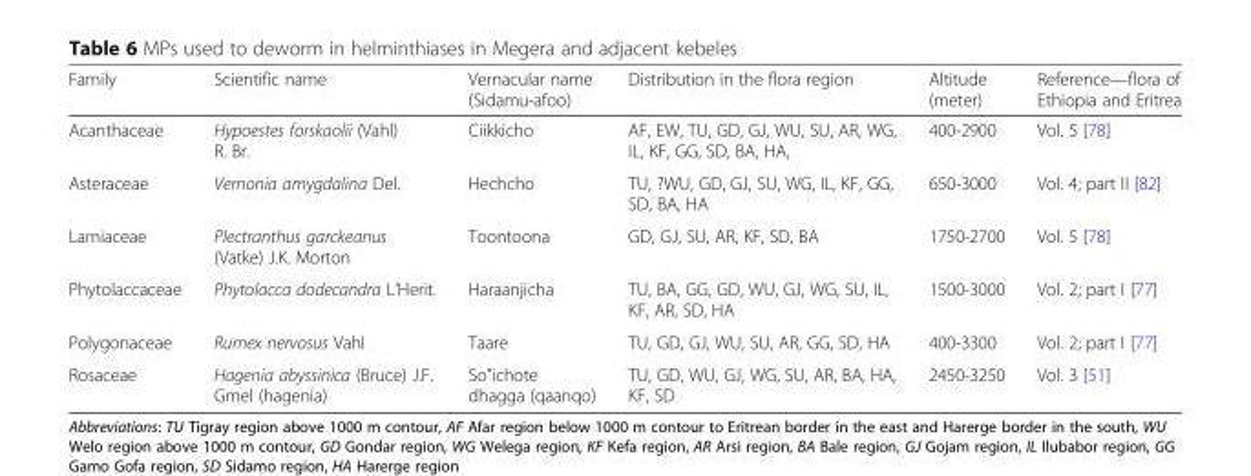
<table><thead><tr><td>Family</td><td>Scientific name</td><td>Vernacular name (Sidamu-afoo)</td><td>Distribution in the flora region</td><td>Altitude (meter)</td><td>Reference—flora of Ethiopia and Eritrea</td></tr></thead><tbody><tr><td>Acanthaceae</td><td>Hypoestes forskaolii (Vahl) R. Br.</td><td>Ciikkicho</td><td>AF, EW, TU, GD, GJ, WU, SU, AR, WG, IL, KF, GG, SD, BA, HA,</td><td>400-2900</td><td>Vol. 5 [78]</td></tr><tr><td>Asteraceae</td><td>Vernonia amygdalina Del.</td><td>Hechcho</td><td>TU, ?WU, GD, GJ, SU, WG, IL, KF, GG, SD, BA, HA</td><td>650-3000</td><td>Vol. 4; part II [82]</td></tr><tr><td>Lamiaceae</td><td>Plectranthus garckeanus (Vatke) J.K. Morton</td><td>Toontoona</td><td>GD, GJ, SU, AR, KF, SD, BA</td><td>1750-2700</td><td>Vol. 5 [78]</td></tr><tr><td>Phytolaccaceae</td><td>Phytolacca dodecandra L’Herit.</td><td>Haraanjicha</td><td>TU, BA, GG, GD, WU, GJ, WG, SU, IL, KF, AR, SD, HA</td><td>1500-3000</td><td>Vol. 2; part I [77]</td></tr><tr><td>Polygonaceae</td><td>Rumex nervosus Vahl</td><td>Taare</td><td>TU, GD, GJ, WU, SU, AR, GG, SD, HA</td><td>400-3300</td><td>Vol. 2; part I [77]</td></tr><tr><td>Rosaceae</td><td>Hagenia abyssinica (Bruce) J.F. Gmel (hagenia)</td><td>So”ichote dhagga (qaanqo)</td><td>TU, GD, WU, GJ, WG, SU, AR, BA, HA, KF, SD</td><td>2450-3250</td><td>Vol. 3 [51]</td></tr></tbody></table>